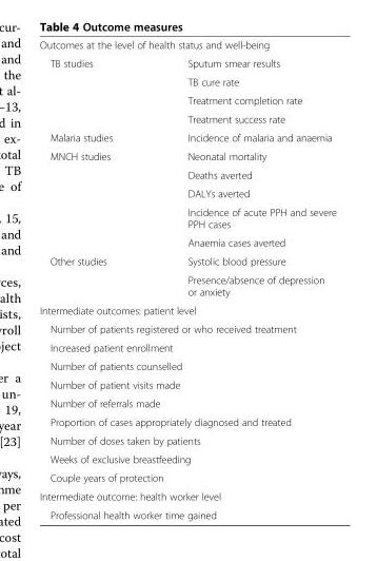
<table><tbody><tr><td colspan="2">Outcomes at the level of health status and well-being</td></tr><tr><td rowspan="4">TB studies</td><td>Sputum smear results</td></tr><tr><td>TB cure rate</td></tr><tr><td>Treatment completion rate</td></tr><tr><td>Treatment success rate</td></tr><tr><td>Malaria studies</td><td>Incidence of malaria and anaemia</td></tr><tr><td rowspan="5">MNCH studies</td><td>Neonatal mortality</td></tr><tr><td>Deaths averted</td></tr><tr><td>DALYs averted</td></tr><tr><td>Incidence of acute PPH and severe PPH cases</td></tr><tr><td>Anaemia cases averted</td></tr><tr><td rowspan="2">Other studies</td><td>Systolic blood pressure</td></tr><tr><td>Presence/absence of depression or anxiety</td></tr><tr><td colspan="2">Intermediate outcomes: patient level</td></tr><tr><td colspan="2">Number of patients registered or who received treatment</td></tr><tr><td colspan="2">Increased patient enrollment</td></tr><tr><td colspan="2">Number of patients counselled</td></tr><tr><td colspan="2">Number of patient visits made</td></tr><tr><td colspan="2">Number of referrals made</td></tr><tr><td colspan="2">Proportion of cases appropriately diagnosed and treated</td></tr><tr><td colspan="2">Number of doses taken by patients</td></tr><tr><td colspan="2">Weeks of exclusive breastfeeding</td></tr><tr><td colspan="2">Couple years of protection</td></tr><tr><td colspan="2">Intermediate outcome: health worker level</td></tr><tr><td colspan="2">Professional health worker time gained</td></tr></tbody></table>